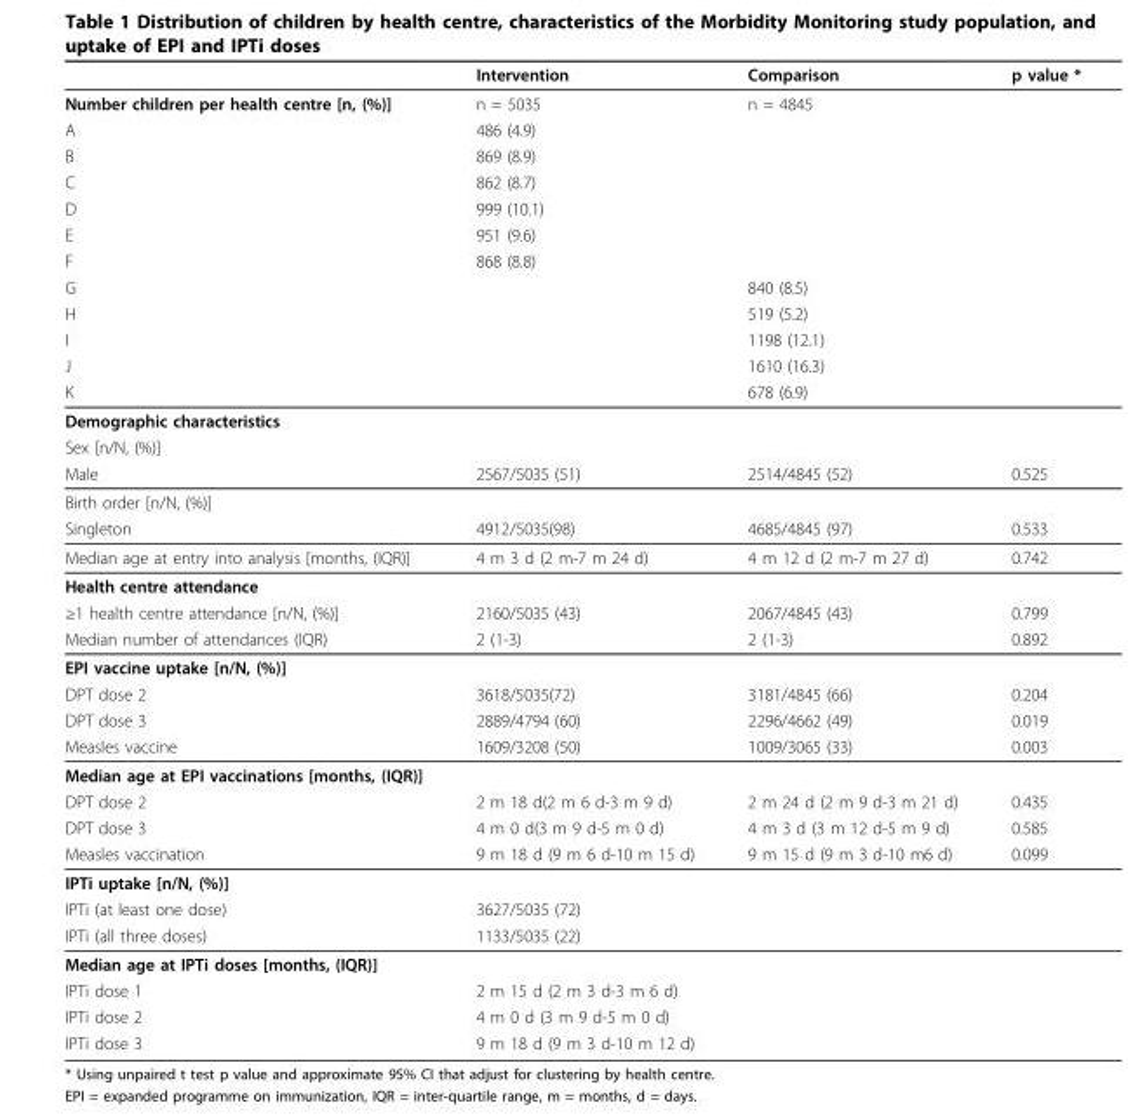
<table><thead><tr><td></td><td>Intervention</td><td>Comparison</td><td>p value *</td></tr></thead><tbody><tr><td>Number children per health centre [n, (%)]</td><td>n = 5035</td><td>n = 4845</td><td></td></tr><tr><td>A</td><td>486 (4.9)</td><td></td><td></td></tr><tr><td>B</td><td>869 (8.9)</td><td></td><td></td></tr><tr><td>C</td><td>862 (8.7)</td><td></td><td></td></tr><tr><td>D</td><td>999 (10.1)</td><td></td><td></td></tr><tr><td>E</td><td>951 (9.6)</td><td></td><td></td></tr><tr><td>F</td><td>868 (8.8)</td><td></td><td></td></tr><tr><td>G</td><td></td><td>840 (8.5)</td><td></td></tr><tr><td>H</td><td></td><td>519 (5.2)</td><td></td></tr><tr><td>I</td><td></td><td>1198 (12.1)</td><td></td></tr><tr><td>J</td><td></td><td>1610 (16.3)</td><td></td></tr><tr><td>K</td><td></td><td>678 (6.9)</td><td></td></tr><tr><td colspan="4">Demographic characteristics</td></tr><tr><td colspan="4">Sex [n/N, (%)]</td></tr><tr><td>Male</td><td>2567/5035 (51)</td><td>2514/4845 (52)</td><td>0.525</td></tr><tr><td colspan="4">Birth order [n/N, (%)]</td></tr><tr><td>Singleton</td><td>4912/5035(98)</td><td>4685/4845 (97)</td><td>0.533</td></tr><tr><td>Median age at entry into analysis [months, (IQR)]</td><td>4 m 3 d (2 m-7 m 24 d)</td><td>4 m 12 d (2 m-7 m 27 d)</td><td>0.742</td></tr><tr><td colspan="4">Health centre attendance</td></tr><tr><td>≥1 health centre attendance [n/N, (%)]</td><td>2160/5035 (43)</td><td>2067/4845 (43)</td><td>0.799</td></tr><tr><td>Median number of attendances (IQR)</td><td>2 (1-3)</td><td>2 (1-3)</td><td>0.892</td></tr><tr><td colspan="4">EPI vaccine uptake [n/N, (%)]</td></tr><tr><td>DPT dose 2</td><td>3618/5035(72)</td><td>3181/4845 (66)</td><td>0.204</td></tr><tr><td>DPT dose 3</td><td>2889/4794 (60)</td><td>2296/4662 (49)</td><td>0.019</td></tr><tr><td>Measles vaccine</td><td>1609/3208 (50)</td><td>1009/3065 (33)</td><td>0.003</td></tr><tr><td colspan="4">Median age at EPI vaccinations [months, (IQR)]</td></tr><tr><td>DPT dose 2</td><td>2 m 18 d(2 m 6 d-3 m 9 d)</td><td>2 m 24 d (2 m 9 d-3 m 21 d)</td><td>0.435</td></tr><tr><td>DPT dose 3</td><td>4 m 0 d(3 m 9 d-5 m 0 d)</td><td>4 m 3 d (3 m 12 d-5 m 9 d)</td><td>0.585</td></tr><tr><td>Measles vaccination</td><td>9 m 18 d (9 m 6 d-10 m 15 d)</td><td>9 m 15 d (9 m 3 d-10 m6 d)</td><td>0.099</td></tr><tr><td colspan="4">IPTi uptake [n/N, (%)]</td></tr><tr><td>IPTi (at least one dose)</td><td>3627/5035 (72)</td><td></td><td></td></tr><tr><td>IPTi (all three doses)</td><td>1133/5035 (22)</td><td></td><td></td></tr><tr><td colspan="4">Median age at IPTi doses [months, (IQR)]</td></tr><tr><td>IPTi dose 1</td><td>2 m 15 d (2 m 3 d-3 m 6 d)</td><td></td><td></td></tr><tr><td>IPTi dose 2</td><td>4 m 0 d (3 m 9 d-5 m 0 d)</td><td></td><td></td></tr><tr><td>IPTi dose 3</td><td>9 m 18 d (9 m 3 d-10 m 12 d)</td><td></td><td></td></tr></tbody></table>